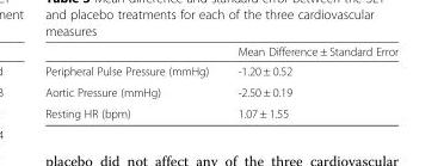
<table><thead><tr><td></td><td>Mean Difference ± Standard Error</td></tr></thead><tbody><tr><td>Peripheral Pulse Pressure (mmHg)</td><td>-1.20 ± 0.52</td></tr><tr><td>Aortic Pressure (mmHg)</td><td>-2.50 ± 0.19</td></tr><tr><td>Resting HR (bpm)</td><td>1.07 ± 1.55</td></tr></tbody></table>